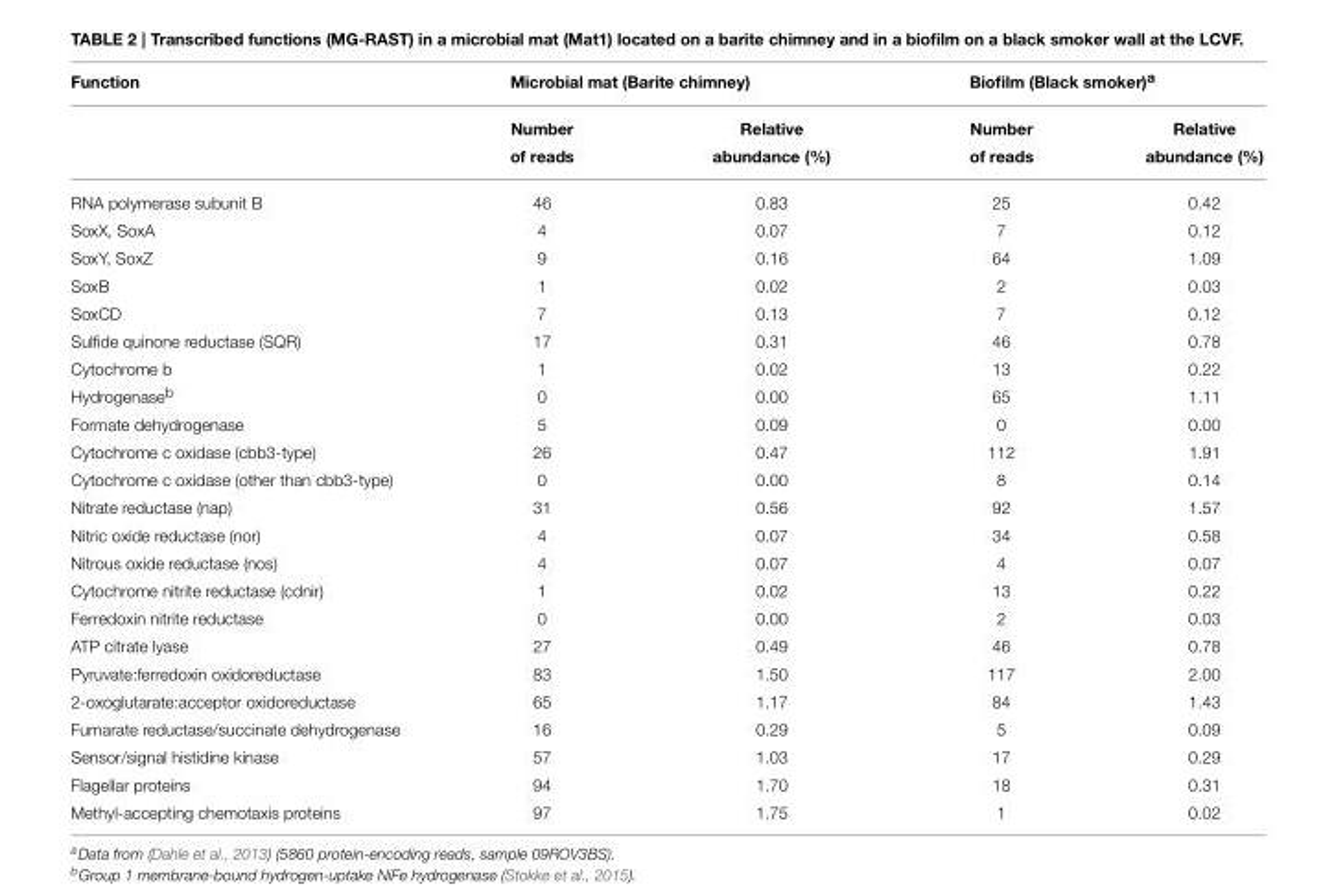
<table><thead><tr><td rowspan="2">Function</td><td colspan="2">Microbial mat (Barite chimney)</td><td colspan="2">Biofilm (Black smoker)<sup>a</sup></td></tr><tr><td>Number of reads</td><td>Relative abundance (%)</td><td>Number of reads</td><td>Relative abundance (%)</td></tr></thead><tbody><tr><td>RNA polymerase subunit B</td><td>46</td><td>0.83</td><td>25</td><td>0.42</td></tr><tr><td>SoxX, SoxA</td><td>4</td><td>0.07</td><td>7</td><td>0.12</td></tr><tr><td>SoxY, SoxZ</td><td>9</td><td>0.16</td><td>64</td><td>1.09</td></tr><tr><td>SoxB</td><td>1</td><td>0.02</td><td>2</td><td>0.03</td></tr><tr><td>SoxCD</td><td>7</td><td>0.13</td><td>7</td><td>0.12</td></tr><tr><td>Sulfide quinone reductase (SQR)</td><td>17</td><td>0.31</td><td>46</td><td>0.78</td></tr><tr><td>Cytochrome b</td><td>1</td><td>0.02</td><td>13</td><td>0.22</td></tr><tr><td>Hydrogenase<sup>b</sup></td><td>0</td><td>0.00</td><td>65</td><td>1.11</td></tr><tr><td>Formate dehydrogenase</td><td>5</td><td>0.09</td><td>0</td><td>0.00</td></tr><tr><td>Cytochrome c oxidase (cbb3-type)</td><td>26</td><td>0.47</td><td>112</td><td>1.91</td></tr><tr><td>Cytochrome c oxidase (other than cbb3-type)</td><td>0</td><td>0.00</td><td>8</td><td>0.14</td></tr><tr><td>Nitrate reductase (nap)</td><td>31</td><td>0.56</td><td>92</td><td>1.57</td></tr><tr><td>Nitric oxide reductase (nor)</td><td>4</td><td>0.07</td><td>34</td><td>0.58</td></tr><tr><td>Nitrous oxide reductase (nos)</td><td>4</td><td>0.07</td><td>4</td><td>0.07</td></tr><tr><td>Cytochrome nitrite reductase (cdnir)</td><td>1</td><td>0.02</td><td>13</td><td>0.22</td></tr><tr><td>Ferredoxin nitrite reductase</td><td>0</td><td>0.00</td><td>2</td><td>0.03</td></tr><tr><td>ATP citrate lyase</td><td>27</td><td>0.49</td><td>46</td><td>0.78</td></tr><tr><td>Pyruvate:ferredoxin oxidoreductase</td><td>83</td><td>1.50</td><td>117</td><td>2.00</td></tr><tr><td>2-oxoglutarate:acceptor oxidoreductase</td><td>65</td><td>1.17</td><td>84</td><td>1.43</td></tr><tr><td>Fumarate reductase/succinate dehydrogenase</td><td>16</td><td>0.29</td><td>5</td><td>0.09</td></tr><tr><td>Sensor/signal histidine kinase</td><td>57</td><td>1.03</td><td>17</td><td>0.29</td></tr><tr><td>Flagellar proteins</td><td>94</td><td>1.70</td><td>18</td><td>0.31</td></tr><tr><td>Methyl-accepting chemotaxis proteins</td><td>97</td><td>1.75</td><td>1</td><td>0.02</td></tr></tbody></table>